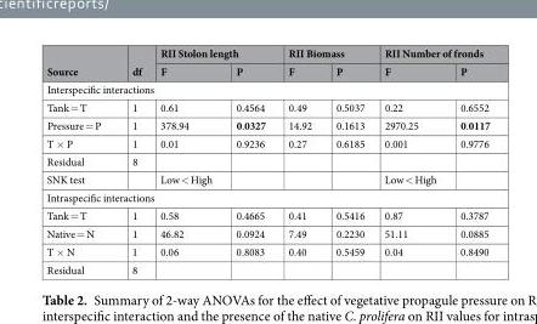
<table><thead><tr><td rowspan="2">Source</td><td rowspan="2">df</td><td colspan="2">RII Stolon length</td><td colspan="2">RII Biomass</td><td colspan="2">RII Number of fronds</td></tr><tr><td>F</td><td>P</td><td>F</td><td>P</td><td>F</td><td>P</td></tr></thead><tbody><tr><td colspan="8">Interspecific interactions</td></tr><tr><td>Tank = T</td><td>1</td><td>0.61</td><td>0.4564</td><td>0.49</td><td>0.5037</td><td>0.22</td><td>0.6552</td></tr><tr><td>Pressure = P</td><td>1</td><td>378.94</td><td>0.0327</td><td>14.92</td><td>0.1613</td><td>2970.25</td><td>0.0117</td></tr><tr><td>T × P</td><td>1</td><td>0.01</td><td>0.9236</td><td>0.27</td><td>0.6185</td><td>0.001</td><td>0.9776</td></tr><tr><td>Residual</td><td>8</td><td></td><td></td><td></td><td></td><td></td><td></td></tr><tr><td>SNK test</td><td></td><td>Low &lt; High</td><td></td><td></td><td></td><td>Low &lt; High</td><td></td></tr><tr><td colspan="8">Intraspecific interactions</td></tr><tr><td>Tank = T</td><td>1</td><td>0.58</td><td>0.4665</td><td>0.41</td><td>0.5416</td><td>0.87</td><td>0.3787</td></tr><tr><td>Native = N</td><td>1</td><td>46.82</td><td>0.0924</td><td>7.49</td><td>0.2230</td><td>51.11</td><td>0.0885</td></tr><tr><td>T × N</td><td>1</td><td>0.06</td><td>0.8083</td><td>0.40</td><td>0.5459</td><td>0.04</td><td>0.8490</td></tr><tr><td>Residual</td><td>8</td><td></td><td></td><td></td><td></td><td></td><td></td></tr></tbody></table>